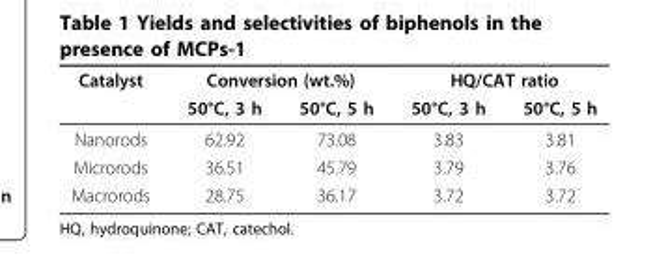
<table><thead><tr><td rowspan="2">Catalyst</td><td colspan="2">Conversion (wt.%)</td><td colspan="2">HQ/CAT ratio</td></tr><tr><td>50°C, 3 h</td><td>50°C, 5 h</td><td>50°C, 3 h</td><td>50°C, 5 h</td></tr></thead><tbody><tr><td>Nanorods</td><td>62.92</td><td>73.08</td><td>3.83</td><td>3.81</td></tr><tr><td>Microrods</td><td>36.51</td><td>45.79</td><td>3.79</td><td>3.76</td></tr><tr><td>Macrorods</td><td>28.75</td><td>36.17</td><td>3.72</td><td>3.72</td></tr></tbody></table>